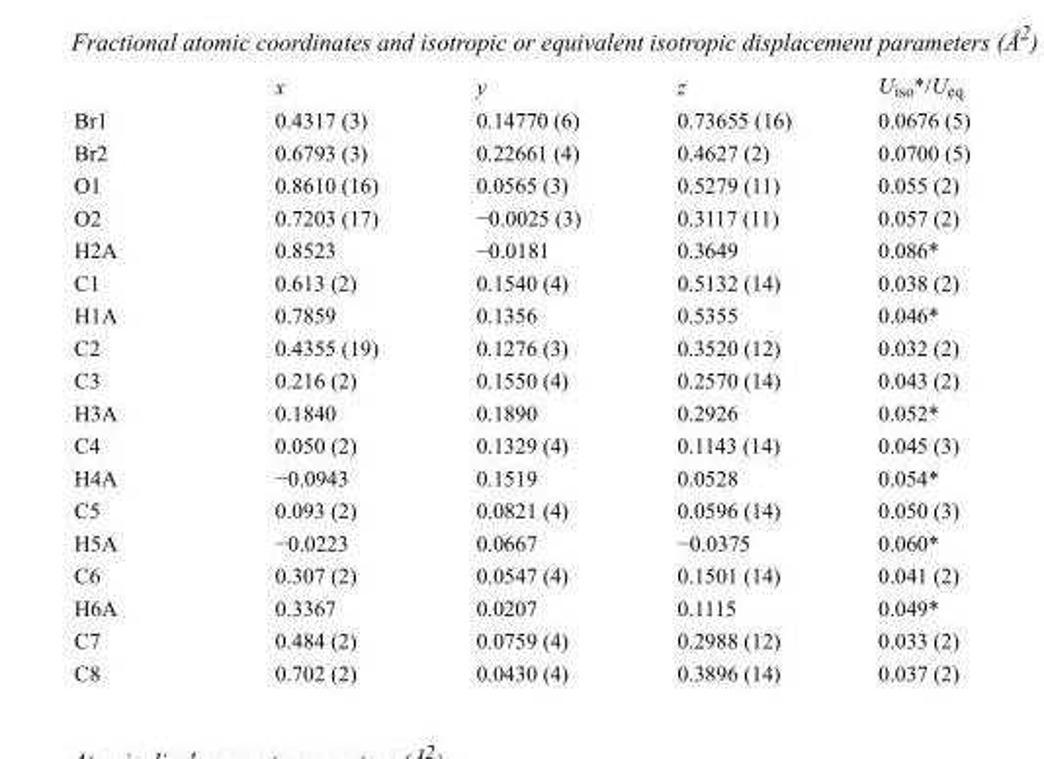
<table><thead><tr><td></td><td>x</td><td>y</td><td>z</td><td>U<sub>iso</sub>*/U<sub>eq</sub></td></tr></thead><tbody><tr><td>Br1</td><td>0.4317 (3)</td><td>0.14770 (6)</td><td>0.73655 (16)</td><td>0.0676 (5)</td></tr><tr><td>Br2</td><td>0.6793 (3)</td><td>0.22661 (4)</td><td>0.4627 (2)</td><td>0.0700 (5)</td></tr><tr><td>O1</td><td>0.8610 (16)</td><td>0.0565 (3)</td><td>0.5279 (11)</td><td>0.055 (2)</td></tr><tr><td>O2</td><td>0.7203 (17)</td><td>−0.0025 (3)</td><td>0.3117 (11)</td><td>0.057 (2)</td></tr><tr><td>H2A</td><td>0.8523</td><td>−0.0181</td><td>0.3649</td><td>0.086*</td></tr><tr><td>C1</td><td>0.613 (2)</td><td>0.1540 (4)</td><td>0.5132 (14)</td><td>0.038 (2)</td></tr><tr><td>H1A</td><td>0.7859</td><td>0.1356</td><td>0.5355</td><td>0.046*</td></tr><tr><td>C2</td><td>0.4355 (19)</td><td>0.1276 (3)</td><td>0.3520 (12)</td><td>0.032 (2)</td></tr><tr><td>C3</td><td>0.216 (2)</td><td>0.1550 (4)</td><td>0.2570 (14)</td><td>0.043 (2)</td></tr><tr><td>H3A</td><td>0.1840</td><td>0.1890</td><td>0.2926</td><td>0.052*</td></tr><tr><td>C4</td><td>0.050 (2)</td><td>0.1329 (4)</td><td>0.1143 (14)</td><td>0.045 (3)</td></tr><tr><td>H4A</td><td>−0.0943</td><td>0.1519</td><td>0.0528</td><td>0.054*</td></tr><tr><td>C5</td><td>0.093 (2)</td><td>0.0821 (4)</td><td>0.0596 (14)</td><td>0.050 (3)</td></tr><tr><td>H5A</td><td>−0.0223</td><td>0.0667</td><td>−0.0375</td><td>0.060*</td></tr><tr><td>C6</td><td>0.307 (2)</td><td>0.0547 (4)</td><td>0.1501 (14)</td><td>0.041 (2)</td></tr><tr><td>H6A</td><td>0.3367</td><td>0.0207</td><td>0.1115</td><td>0.049*</td></tr><tr><td>C7</td><td>0.484 (2)</td><td>0.0759 (4)</td><td>0.2988 (12)</td><td>0.033 (2)</td></tr><tr><td>C8</td><td>0.702 (2)</td><td>0.0430 (4)</td><td>0.3896 (14)</td><td>0.037 (2)</td></tr></tbody></table>